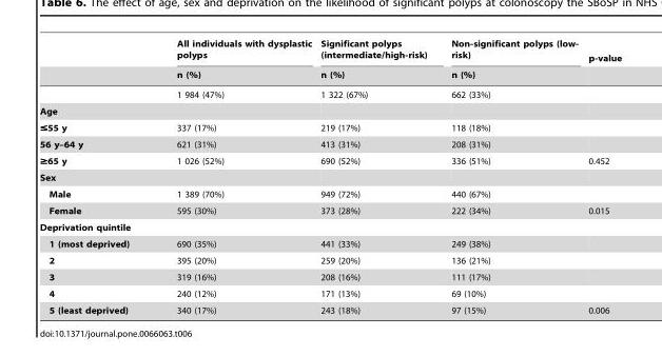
<table><thead><tr><td rowspan="2"></td><td rowspan="2">All individuals with dysplastic polyps n (%)</td><td rowspan="2">Significant polyps (intermediate/high-risk) n (%)</td><td rowspan="2">Non-significant polyps (low- risk) n (%)</td><td rowspan="2">p-value</td></tr><tr></tr></thead><tbody><tr><td></td><td>1 984 (47%)</td><td>1 322 (67%)</td><td>662 (33%)</td><td></td></tr><tr><td colspan="5">Age</td></tr><tr><td>≤55 y</td><td>337 (17%)</td><td>219 (17%)</td><td>118 (18%)</td><td></td></tr><tr><td>56 y–64 y</td><td>621 (31%)</td><td>413 (31%)</td><td>208 (31%)</td><td></td></tr><tr><td>≥65 y</td><td>1 026 (52%)</td><td>690 (52%)</td><td>336 (51%)</td><td>0.452</td></tr><tr><td colspan="5">Sex</td></tr><tr><td>Male</td><td>1 389 (70%)</td><td>949 (72%)</td><td>440 (67%)</td><td></td></tr><tr><td>Female</td><td>595 (30%)</td><td>373 (28%)</td><td>222 (34%)</td><td>0.015</td></tr><tr><td colspan="5">Deprivation quintile</td></tr><tr><td>1 (most deprived)</td><td>690 (35%)</td><td>441 (33%)</td><td>249 (38%)</td><td></td></tr><tr><td>2</td><td>395 (20%)</td><td>259 (20%)</td><td>136 (21%)</td><td></td></tr><tr><td>3</td><td>319 (16%)</td><td>208 (16%)</td><td>111 (17%)</td><td></td></tr><tr><td>4</td><td>240 (12%)</td><td>171 (13%)</td><td>69 (10%)</td><td></td></tr><tr><td>5 (least deprived)</td><td>340 (17%)</td><td>243 (18%)</td><td>97 (15%)</td><td>0.006</td></tr></tbody></table>